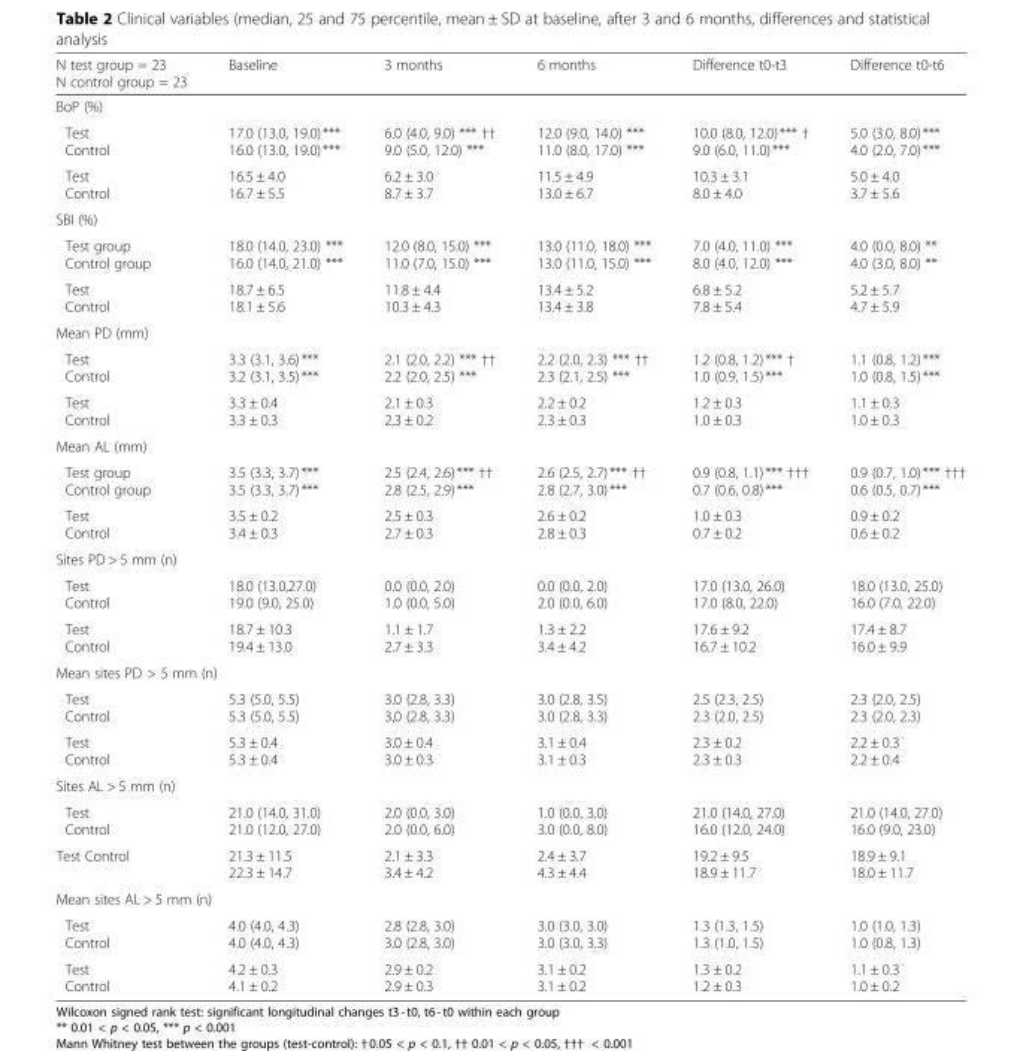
<table><thead><tr><td>N test group = 23 N control group = 23</td><td>Baseline</td><td>3 months</td><td>6 months</td><td>Difference t0-t3</td><td>Difference t0-t6</td></tr></thead><tbody><tr><td colspan="6">BoP (%)</td></tr><tr><td>Test Control</td><td>17.0 (13.0, 19.0)*** 16.0 (13.0, 19.0)***</td><td>6.0 (4.0, 9.0) *** †† 9.0 (5.0, 12.0) ***</td><td>12.0 (9.0, 14.0) *** 11.0 (8.0, 17.0) ***</td><td>10.0 (8.0, 12.0)*** † 9.0 (6.0, 11.0)***</td><td>5.0 (3.0, 8.0)*** 4.0 (2.0, 7.0)***</td></tr><tr><td>Test Control</td><td>16.5 ± 4.0 16.7 ± 5.5</td><td>6.2 ± 3.0 8.7 ± 3.7</td><td>11.5 ± 4.9 13.0 ± 6.7</td><td>10.3 ± 3.1 8.0 ± 4.0</td><td>5.0 ± 4.0 3.7 ± 5.6</td></tr><tr><td colspan="6">SBI (%)</td></tr><tr><td>Test group Control group</td><td>18.0 (14.0, 23.0) *** 16.0 (14.0, 21.0) ***</td><td>12.0 (8.0, 15.0) *** 11.0 (7.0, 15.0) ***</td><td>13.0 (11.0, 18.0) *** 13.0 (11.0, 15.0) ***</td><td>7.0 (4.0, 11.0) *** 8.0 (4.0, 12.0) ***</td><td>4.0 (0.0, 8.0) ** 4.0 (3.0, 8.0) **</td></tr><tr><td>Test Control</td><td>18.7 ± 6.5 18.1 ± 5.6</td><td>11.8 ± 4.4 10.3 ± 4.3</td><td>13.4 ± 5.2 13.4 ± 3.8</td><td>6.8 ± 5.2 7.8 ± 5.4</td><td>5.2 ± 5.7 4.7 ± 5.9</td></tr><tr><td colspan="6">Mean PD (mm)</td></tr><tr><td>Test Control</td><td>3.3 (3.1, 3.6)*** 3.2 (3.1, 3.5)***</td><td>2.1 (2.0, 2.2) *** †† 2.2 (2.0, 2.5) ***</td><td>2.2 (2.0, 2.3) *** †† 2.3 (2.1, 2.5) ***</td><td>1.2 (0.8, 1.2)*** † 1.0 (0.9, 1.5)***</td><td>1.1 (0.8, 1.2)*** 1.0 (0.8, 1.5)***</td></tr><tr><td>Test Control</td><td>3.3 ± 0.4 3.3 ± 0.3</td><td>2.1 ± 0.3 2.3 ± 0.2</td><td>2.2 ± 0.2 2.3 ± 0.3</td><td>1.2 ± 0.3 1.0 ± 0.3</td><td>1.1 ± 0.3 1.0 ± 0.3</td></tr><tr><td colspan="6">Mean AL (mm)</td></tr><tr><td>Test group Control group</td><td>3.5 (3.3, 3.7)*** 3.5 (3.3, 3.7)***</td><td>2.5 (2.4, 2.6)*** †† 2.8 (2.5, 2.9)***</td><td>2.6 (2.5, 2.7)*** †† 2.8 (2.7, 3.0)***</td><td>0.9 (0.8, 1.1)*** ††† 0.7 (0.6, 0.8)***</td><td>0.9 (0.7, 1.0)*** ††† 0.6 (0.5, 0.7)***</td></tr><tr><td>Test Control</td><td>3.5 ± 0.2 3.4 ± 0.3</td><td>2.5 ± 0.3 2.7 ± 0.3</td><td>2.6 ± 0.2 2.8 ± 0.3</td><td>1.0 ± 0.3 0.7 ± 0.2</td><td>0.9 ± 0.2 0.6 ± 0.2</td></tr><tr><td colspan="6">Sites PD &gt; 5 mm (n)</td></tr><tr><td>Test Control</td><td>18.0 (13.0,27.0) 19.0 (9.0, 25.0)</td><td>0.0 (0.0, 2.0) 1.0 (0.0, 5.0)</td><td>0.0 (0.0, 2.0) 2.0 (0.0, 6.0)</td><td>17.0 (13.0, 26.0) 17.0 (8.0, 22.0)</td><td>18.0 (13.0, 25.0) 16.0 (7.0, 22.0)</td></tr><tr><td>Test Control</td><td>18.7 ± 10.3 19.4 ± 13.0</td><td>1.1 ± 1.7 2.7 ± 3.3</td><td>1.3 ± 2.2 3.4 ± 4.2</td><td>17.6 ± 9.2 16.7 ± 10.2</td><td>17.4 ± 8.7 16.0 ± 9.9</td></tr><tr><td colspan="6">Mean sites PD &gt; 5 mm (n)</td></tr><tr><td>Test Control</td><td>5.3 (5.0, 5.5) 5.3 (5.0, 5.5)</td><td>3.0 (2.8, 3.3) 3,0 (2.8, 3.3)</td><td>3.0 (2.8, 3.5) 3.0 (2.8, 3.3)</td><td>2.5 (2.3, 2.5) 2.3 (2.0, 2.5)</td><td>2.3 (2.0, 2.5) 2.3 (2.0, 2.3)</td></tr><tr><td>Test Control</td><td>5.3 ± 0.4 5.3 ± 0.4</td><td>3.0 ± 0.4 3.0 ± 0.3</td><td>3.1 ± 0.4 3.1 ± 0.3</td><td>2.3 ± 0.2 2.3 ± 0.3</td><td>2.2 ± 0.3 2.2 ± 0.4</td></tr><tr><td colspan="6">Sites AL &gt; 5 mm (n)</td></tr><tr><td>Test Control</td><td>21.0 (14.0, 31.0) 21.0 (12.0, 27.0)</td><td>2.0 (0.0, 3.0) 2.0 (0.0, 6.0)</td><td>1.0 (0.0, 3.0) 3.0 (0.0, 8.0)</td><td>21.0 (14.0, 27.0) 16.0 (12.0, 24.0)</td><td>21.0 (14.0, 27.0) 16.0 (9.0, 23.0)</td></tr><tr><td>Test Control</td><td>21.3 ± 11.5 22.3 ± 14.7</td><td>2.1 ± 3.3 3.4 ± 4.2</td><td>2.4 ± 3.7 4.3 ± 4.4</td><td>19.2 ± 9.5 18.9 ± 11.7</td><td>18.9 ± 9.1 18.0 ± 11.7</td></tr><tr><td colspan="6">Mean sites AL &gt; 5 mm (n)</td></tr><tr><td>Test Control</td><td>4.0 (4.0, 4.3) 4.0 (4.0, 4.3)</td><td>2.8 (2.8, 3.0) 3.0 (2.8, 3.0)</td><td>3.0 (3.0, 3.0) 3.0 (3.0, 3.3)</td><td>1.3 (1.3, 1.5) 1.3 (1.0, 1.5)</td><td>1.0 (1.0, 1.3) 1.0 (0.8, 1.3)</td></tr><tr><td>Test Control</td><td>4.2 ± 0.3 4.1 ± 0.2</td><td>2.9 ± 0.2 2.9 ± 0.3</td><td>3.1 ± 0.2 3.1 ± 0.2</td><td>1.3 ± 0.2 1.2 ± 0.3</td><td>1.1 ± 0.3 1.0 ± 0.2</td></tr></tbody></table>